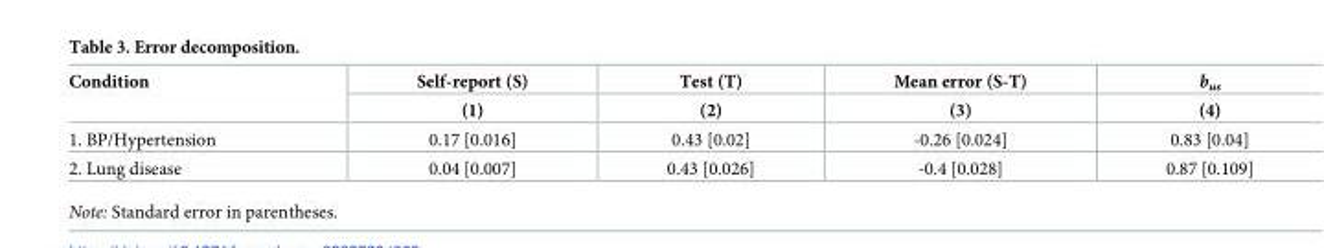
<table><thead><tr><td rowspan="2">Condition</td><td rowspan="2">Self-report (S) (1)</td><td rowspan="2">Test (T) (2)</td><td rowspan="2">Mean error (S-T) (3)</td><td rowspan="2">b<sub>us</sub> (4)</td></tr><tr></tr></thead><tbody><tr><td>1. BP/Hypertension</td><td>0.17 [0.016]</td><td>0.43 [0.02]</td><td>-0.26 [0.024]</td><td>0.83 [0.04]</td></tr><tr><td>2. Lung disease</td><td>0.04 [0.007]</td><td>0.43 [0.026]</td><td>-0.4 [0.028]</td><td>0.87 [0.109]</td></tr></tbody></table>